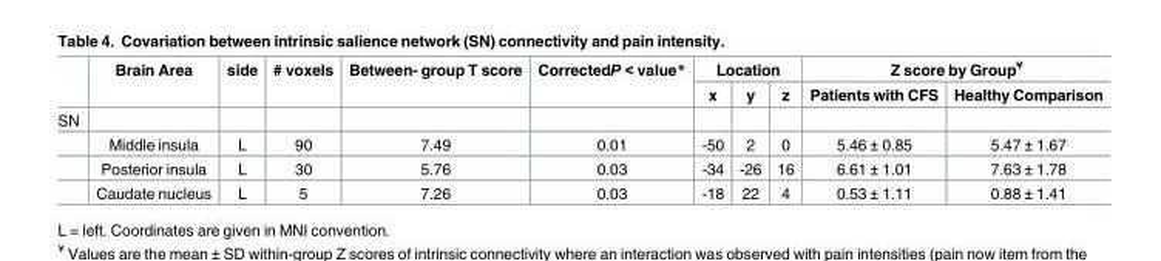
<table><thead><tr><td rowspan="2"></td><td rowspan="2">Brain Area</td><td rowspan="2">side</td><td rowspan="2"># voxels</td><td rowspan="2">Between- group T score</td><td rowspan="2">CorrectedP &lt; value*</td><td colspan="3">Location</td><td colspan="2">Z score by Group<sup>¥</sup></td></tr><tr><td>x</td><td>y</td><td>z</td><td>Patients with CFS</td><td>Healthy Comparison</td></tr></thead><tbody><tr><td colspan="11">SN</td></tr><tr><td></td><td>Middle insula</td><td>L</td><td>90</td><td>7.49</td><td>0.01</td><td>-50</td><td>2</td><td>0</td><td>5.46 ± 0.85</td><td>5.47 ± 1.67</td></tr><tr><td></td><td>Posterior insula</td><td>L</td><td>30</td><td>5.76</td><td>0.03</td><td>-34</td><td>-26</td><td>16</td><td>6.61 ± 1.01</td><td>7.63 ± 1.78</td></tr><tr><td></td><td>Caudate nucleus</td><td>L</td><td>5</td><td>7.26</td><td>0.03</td><td>-18</td><td>22</td><td>4</td><td>0.53 ± 1.11</td><td>0.88 ± 1.41</td></tr></tbody></table>